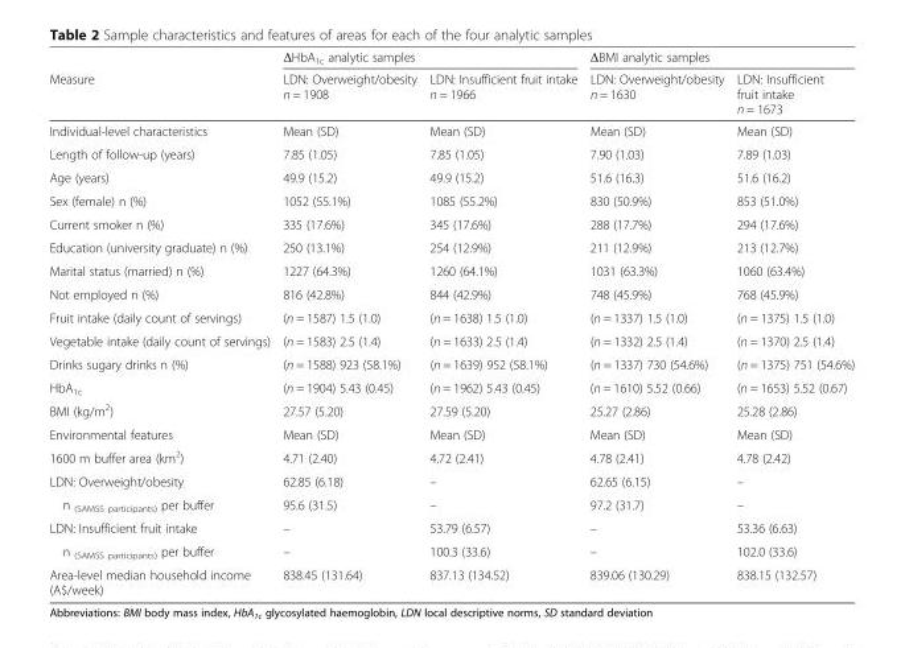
<table><thead><tr><td rowspan="2">Measure</td><td colspan="2">ΔHbA<sub>1c</sub> analytic samples</td><td colspan="2">ΔBMI analytic samples</td></tr><tr><td>LDN: Overweight/obesity n = 1908</td><td>LDN: Insufficient fruit intake n = 1966</td><td>LDN: Overweight/obesity n = 1630</td><td>LDN: Insufficient fruit intake n = 1673</td></tr></thead><tbody><tr><td>Individual-level characteristics</td><td>Mean (SD)</td><td>Mean (SD)</td><td>Mean (SD)</td><td>Mean (SD)</td></tr><tr><td>Length of follow-up (years)</td><td>7.85 (1.05)</td><td>7.85 (1.05)</td><td>7.90 (1.03)</td><td>7.89 (1.03)</td></tr><tr><td>Age (years)</td><td>49.9 (15.2)</td><td>49.9 (15.2)</td><td>51.6 (16.3)</td><td>51.6 (16.2)</td></tr><tr><td>Sex (female) n (%)</td><td>1052 (55.1%)</td><td>1085 (55.2%)</td><td>830 (50.9%)</td><td>853 (51.0%)</td></tr><tr><td>Current smoker n (%)</td><td>335 (17.6%)</td><td>345 (17.6%)</td><td>288 (17.7%)</td><td>294 (17.6%)</td></tr><tr><td>Education (university graduate) n (%)</td><td>250 (13.1%)</td><td>254 (12.9%)</td><td>211 (12.9%)</td><td>213 (12.7%)</td></tr><tr><td>Marital status (married) n (%)</td><td>1227 (64.3%)</td><td>1260 (64.1%)</td><td>1031 (63.3%)</td><td>1060 (63.4%)</td></tr><tr><td>Not employed n (%)</td><td>816 (42.8%)</td><td>844 (42.9%)</td><td>748 (45.9%)</td><td>768 (45.9%)</td></tr><tr><td>Fruit intake (daily count of servings)</td><td>(n = 1587) 1.5 (1.0)</td><td>(n = 1638) 1.5 (1.0)</td><td>(n = 1337) 1.5 (1.0)</td><td>(n = 1375) 1.5 (1.0)</td></tr><tr><td>Vegetable intake (daily count of servings)</td><td>(n = 1583) 2.5 (1.4)</td><td>(n = 1633) 2.5 (1.4)</td><td>(n = 1332) 2.5 (1.4)</td><td>(n = 1370) 2.5 (1.4)</td></tr><tr><td>Drinks sugary drinks n (%)</td><td>(n = 1588) 923 (58.1%)</td><td>(n = 1639) 952 (58.1%)</td><td>(n = 1337) 730 (54.6%)</td><td>(n = 1375) 751 (54.6%)</td></tr><tr><td>HbA<sub>1c</sub></td><td>(n = 1904) 5.43 (0.45)</td><td>(n = 1962) 5.43 (0.45)</td><td>(n = 1610) 5.52 (0.66)</td><td>(n = 1653) 5.52 (0.67)</td></tr><tr><td>BMI (kg/m<sup>2</sup>)</td><td>27.57 (5.20)</td><td>27.59 (5.20)</td><td>25.27 (2.86)</td><td>25.28 (2.86)</td></tr><tr><td>Environmental features</td><td>Mean (SD)</td><td>Mean (SD)</td><td>Mean (SD)</td><td>Mean (SD)</td></tr><tr><td>1600 m buffer area (km<sup>2</sup>)</td><td>4.71 (2.40)</td><td>4.72 (2.41)</td><td>4.78 (2.41)</td><td>4.78 (2.42)</td></tr><tr><td>LDN: Overweight/obesity</td><td>62.85 (6.18)</td><td>–</td><td>62.65 (6.15)</td><td>–</td></tr><tr><td>n <sub>(SAMSS participants)</sub> per buffer</td><td>95.6 (31.5)</td><td>–</td><td>97.2 (31.7)</td><td>–</td></tr><tr><td>LDN: Insufficient fruit intake</td><td>–</td><td>53.79 (6.57)</td><td>–</td><td>53.36 (6.63)</td></tr><tr><td>n <sub>(SAMSS participants)</sub> per buffer</td><td>–</td><td>100.3 (33.6)</td><td>–</td><td>102.0 (33.6)</td></tr><tr><td>Area-level median household income (A$/week)</td><td>838.45 (131.64)</td><td>837.13 (134.52)</td><td>839.06 (130.29)</td><td>838.15 (132.57)</td></tr></tbody></table>